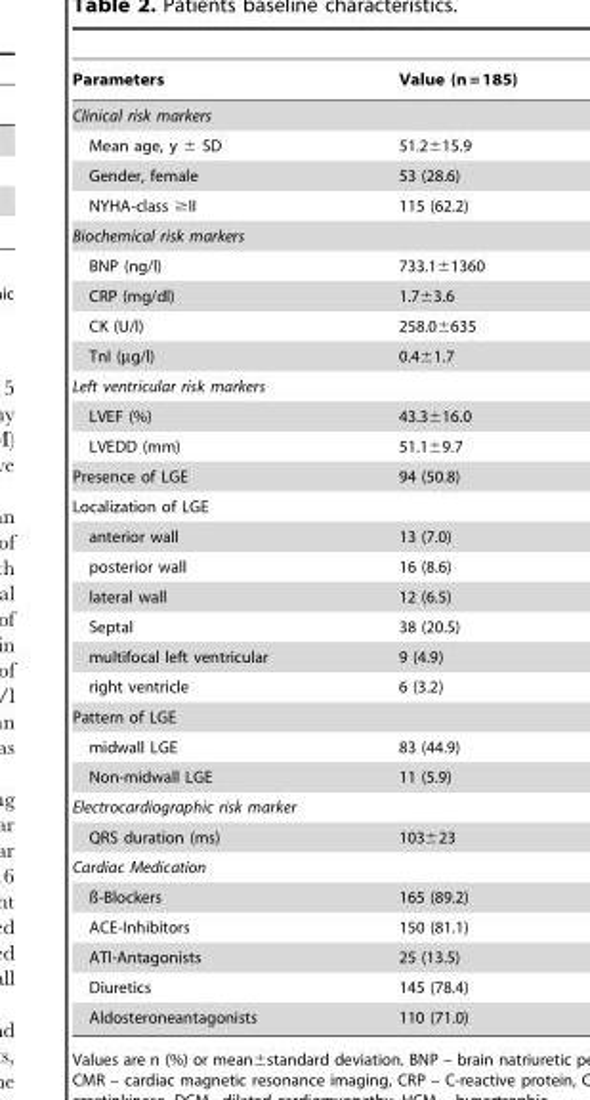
<table><thead><tr><td>Parameters</td><td>Value (n = 185)</td></tr></thead><tbody><tr><td colspan="2">Clinical risk markers</td></tr><tr><td>Mean age, y ± SD</td><td>51.2±15.9</td></tr><tr><td>Gender, female</td><td>53 (28.6)</td></tr><tr><td>NYHA-class ≥II</td><td>115 (62.2)</td></tr><tr><td colspan="2">Biochemical risk markers</td></tr><tr><td>BNP (ng/l)</td><td>733.1±1360</td></tr><tr><td>CRP (mg/dl)</td><td>1.7±3.6</td></tr><tr><td>CK (U/l)</td><td>258.0±635</td></tr><tr><td>TnI (µg/l)</td><td>0.4±1.7</td></tr><tr><td colspan="2">Left ventricular risk markers</td></tr><tr><td>LVEF (%)</td><td>43.3±16.0</td></tr><tr><td>LVEDD (mm)</td><td>51.1±9.7</td></tr><tr><td>Presence of LGE</td><td>94 (50.8)</td></tr><tr><td colspan="2">Localization of LGE</td></tr><tr><td>anterior wall</td><td>13 (7.0)</td></tr><tr><td>posterior wall</td><td>16 (8.6)</td></tr><tr><td>lateral wall</td><td>12 (6.5)</td></tr><tr><td>Septal</td><td>38 (20.5)</td></tr><tr><td>multifocal left ventricular</td><td>9 (4.9)</td></tr><tr><td>right ventricle</td><td>6 (3.2)</td></tr><tr><td colspan="2">Pattern of LGE</td></tr><tr><td>midwall LGE</td><td>83 (44.9)</td></tr><tr><td>Non-midwall LGE</td><td>11 (5.9)</td></tr><tr><td colspan="2">Electrocardiographic risk marker</td></tr><tr><td>QRS duration (ms)</td><td>103±23</td></tr><tr><td colspan="2">Cardiac Medication</td></tr><tr><td>ß-Blockers</td><td>165 (89.2)</td></tr><tr><td>ACE-Inhibitors</td><td>150 (81.1)</td></tr><tr><td>ATI-Antagonists</td><td>25 (13.5)</td></tr><tr><td>Diuretics</td><td>145 (78.4)</td></tr><tr><td>Aldosteroneantagonists</td><td>110 (71.0)</td></tr></tbody></table>